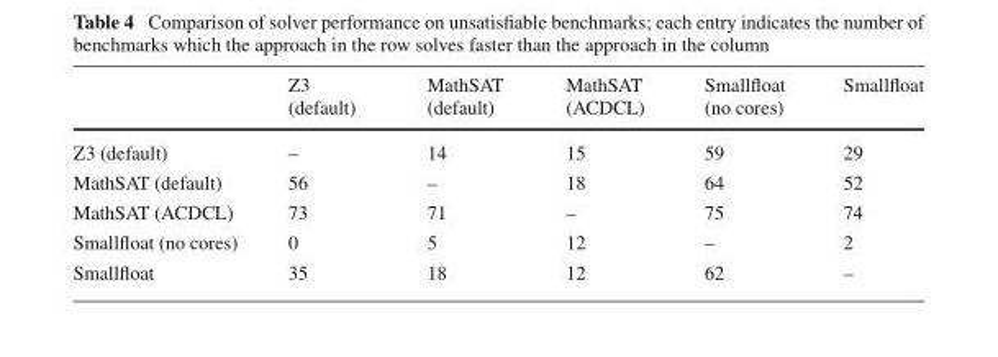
<table><thead><tr><td></td><td>Z3 (default)</td><td>MathSAT (default)</td><td>MathSAT (ACDCL)</td><td>Smallfloat (no cores)</td><td>Smallfloat</td></tr></thead><tbody><tr><td>Z3 (default)</td><td>–</td><td>14</td><td>15</td><td>59</td><td>29</td></tr><tr><td>MathSAT (default)</td><td>56</td><td>–</td><td>18</td><td>64</td><td>52</td></tr><tr><td>MathSAT (ACDCL)</td><td>73</td><td>71</td><td>–</td><td>75</td><td>74</td></tr><tr><td>Smallfloat (no cores)</td><td>0</td><td>5</td><td>12</td><td>–</td><td>2</td></tr><tr><td>Smallfloat</td><td>35</td><td>18</td><td>12</td><td>62</td><td>–</td></tr></tbody></table>